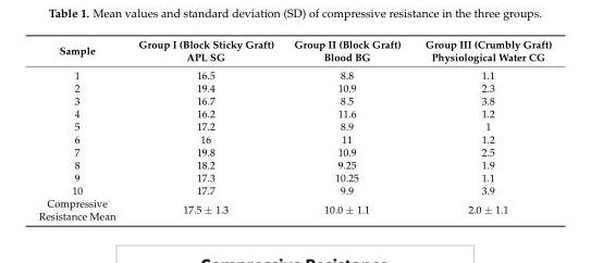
<table><thead><tr><td>Sample</td><td>Group I (Block Sticky Graft) APL SG</td><td>Group II (Block Graft) Blood BG</td><td>Group III (Crumbly Graft) Physiological Water CG</td></tr></thead><tbody><tr><td>1</td><td>16.5</td><td>8.8</td><td>1.1</td></tr><tr><td>2</td><td>19.4</td><td>10.9</td><td>2.3</td></tr><tr><td>3</td><td>16.7</td><td>8.5</td><td>3.8</td></tr><tr><td>4</td><td>16.2</td><td>11.6</td><td>1.2</td></tr><tr><td>5</td><td>17.2</td><td>8.9</td><td>1</td></tr><tr><td>6</td><td>16</td><td>11</td><td>1.2</td></tr><tr><td>7</td><td>19.8</td><td>10.9</td><td>2.5</td></tr><tr><td>8</td><td>18.2</td><td>9.25</td><td>1.9</td></tr><tr><td>9</td><td>17.3</td><td>10.25</td><td>1.1</td></tr><tr><td>10</td><td>17.7</td><td>9.9</td><td>3.9</td></tr><tr><td>Compressive Resistance Mean</td><td>17.5 ± 1.3</td><td>10.0 ± 1.1</td><td>2.0 ± 1.1</td></tr></tbody></table>